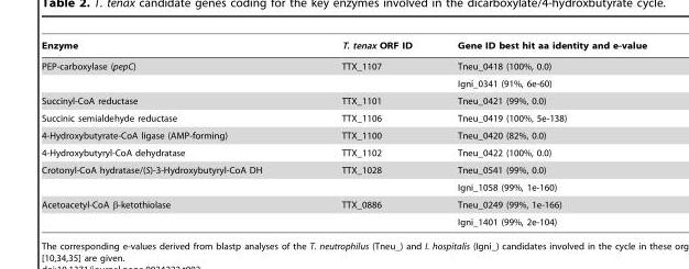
<table><thead><tr><td>Enzyme</td><td>T. tenax ORF ID</td><td>Gene ID best hit aa identity and e-value</td></tr></thead><tbody><tr><td rowspan="2">PEP-carboxylase (pepC)</td><td>TTX_1107</td><td>Tneu_0418 (100%, 0.0)</td></tr><tr><td></td><td>Igni_0341 (91%, 6e-60)</td></tr><tr><td>Succinyl-CoA reductase</td><td>TTX_1101</td><td>Tneu_0421 (99%, 0.0)</td></tr><tr><td>Succinic semialdehyde reductase</td><td>TTX_1106</td><td>Tneu_0419 (100%, 5e-138)</td></tr><tr><td>4-Hydroxybutyrate-CoA ligase (AMP-forming)</td><td>TTX_1100</td><td>Tneu_0420 (82%, 0.0)</td></tr><tr><td>4-Hydroxybutyryl-CoA dehydratase</td><td>TTX_1102</td><td>Tneu_0422 (100%, 0.0)</td></tr><tr><td rowspan="2">Crotonyl-CoA hydratase/(S)-3-Hydroxybutyryl-CoA DH</td><td>TTX_1028</td><td>Tneu_0541 (99%, 0.0)</td></tr><tr><td></td><td>Igni_1058 (99%, 1e-160)</td></tr><tr><td rowspan="2">Acetoacetyl-CoA β-ketothiolase</td><td>TTX_0886</td><td>Tneu_0249 (99%, 1e-166)</td></tr><tr><td></td><td>Igni_1401 (99%, 2e-104)</td></tr></tbody></table>